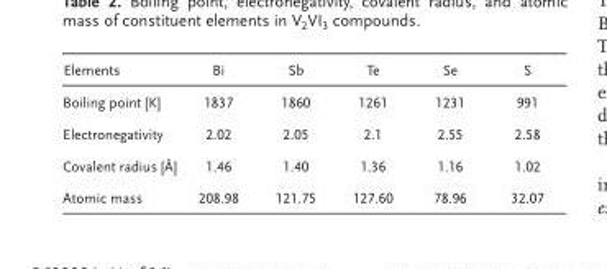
<table><thead><tr><td>Elements</td><td>Bi</td><td>Sb</td><td>Te</td><td>Se</td><td>S</td></tr></thead><tbody><tr><td>Boiling point [K]</td><td>1837</td><td>1860</td><td>1261</td><td>1231</td><td>991</td></tr><tr><td>Electronegativity</td><td>2.02</td><td>2.05</td><td>2.1</td><td>2.55</td><td>2.58</td></tr><tr><td>Covalent radius [Å]</td><td>1.46</td><td>1.40</td><td>1.36</td><td>1.16</td><td>1.02</td></tr><tr><td>Atomic mass</td><td>208.98</td><td>121.75</td><td>127.60</td><td>78.96</td><td>32.07</td></tr></tbody></table>